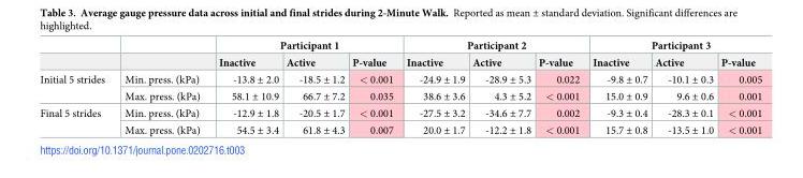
<table><thead><tr><td rowspan="2"></td><td rowspan="2"></td><td colspan="3">Participant 1</td><td colspan="3">Participant 2</td><td colspan="3">Participant 3</td></tr><tr><td>Inactive</td><td>Active</td><td>P-value</td><td>Inactive</td><td>Active</td><td>P-value</td><td>Inactive</td><td>Active</td><td>P-value</td></tr></thead><tbody><tr><td rowspan="2">Initial 5 strides</td><td>Min. press. (kPa)</td><td>-13.8 ± 2.0</td><td>-18.5 ± 1.2</td><td>&lt; 0.001</td><td>-24.9 ± 1.9</td><td>-28.9 ± 5.3</td><td>0.022</td><td>-9.8 ± 0.7</td><td>-10.1 ± 0.3</td><td>0.005</td></tr><tr><td>Max. press. (kPa)</td><td>58.1 ± 10.9</td><td>66.7 ± 7.2</td><td>0.035</td><td>38.6 ± 3.6</td><td>4.3 ± 5.2</td><td>&lt; 0.001</td><td>15.0 ± 0.9</td><td>9.6 ± 0.6</td><td>0.001</td></tr><tr><td rowspan="2">Final 5 strides</td><td>Min. press. (kPa)</td><td>-12.9 ± 1.8</td><td>-20.5 ± 1.7</td><td>&lt; 0.001</td><td>-27.5 ± 3.2</td><td>-34.6 ± 7.7</td><td>0.002</td><td>-9.3 ± 0.4</td><td>-28.3 ± 0.1</td><td>&lt; 0.001</td></tr><tr><td>Max. press. (kPa)</td><td>54.5 ± 3.4</td><td>61.8 ± 4.3</td><td>0.007</td><td>20.0 ± 1.7</td><td>-12.2 ± 1.8</td><td>&lt; 0.001</td><td>15.7 ± 0.8</td><td>-13.5 ± 1.0</td><td>&lt; 0.001</td></tr></tbody></table>